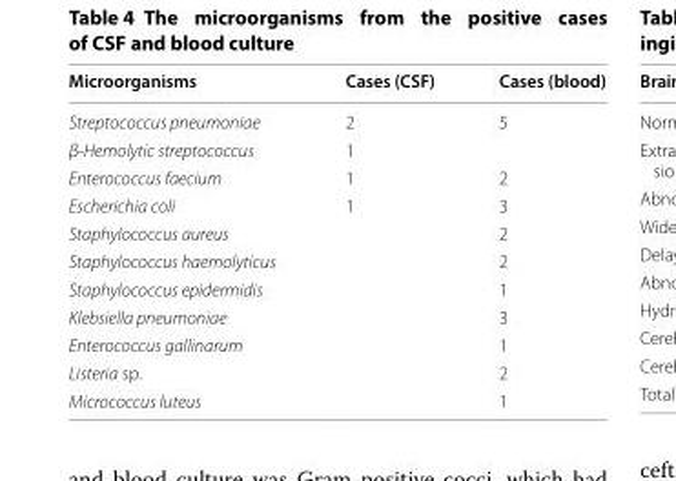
<table><thead><tr><td>Microorganisms</td><td>Cases (CSF)</td><td>Cases (blood)</td></tr></thead><tbody><tr><td>Streptococcus pneumoniae</td><td>2</td><td>5</td></tr><tr><td>β-Hemolytic streptococcus</td><td>1</td><td></td></tr><tr><td>Enterococcus faecium</td><td>1</td><td>2</td></tr><tr><td>Escherichia coli</td><td>1</td><td>3</td></tr><tr><td>Staphylococcus aureus</td><td></td><td>2</td></tr><tr><td>Staphylococcus haemolyticus</td><td></td><td>2</td></tr><tr><td>Staphylococcus epidermidis</td><td></td><td>1</td></tr><tr><td>Klebsiella pneumoniae</td><td></td><td>3</td></tr><tr><td>Enterococcus gallinarum</td><td></td><td>1</td></tr><tr><td>Listeria sp.</td><td></td><td>2</td></tr><tr><td>Micrococcus luteus</td><td></td><td>1</td></tr></tbody></table>